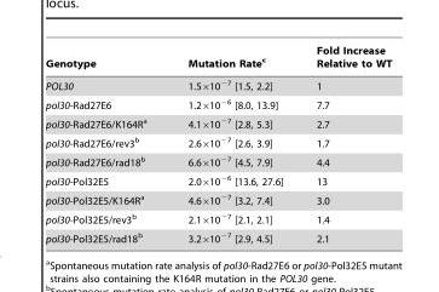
<table><thead><tr><td>Genotype</td><td>Mutation Rate<sup>c</sup></td><td>Fold Increase Relative to WT</td></tr></thead><tbody><tr><td>POL30</td><td>1.5×10<sup>−7</sup> [1.5, 2.2]</td><td>1</td></tr><tr><td>pol30-Rad27E6</td><td>1.2×10<sup>−6</sup> [8.0, 13.9]</td><td>7.7</td></tr><tr><td>pol30-Rad27E6/K164R<sup>a</sup></td><td>4.1×10<sup>−7</sup> [2.8, 5.3]</td><td>2.7</td></tr><tr><td>pol30-Rad27E6/rev3<sup>b</sup></td><td>2.6×10<sup>−7</sup> [2.6, 3.9]</td><td>1.7</td></tr><tr><td>pol30-Rad27E6/rad18<sup>b</sup></td><td>6.6×10<sup>−7</sup> [4.5, 7.9]</td><td>4.4</td></tr><tr><td>pol30-Pol32E5</td><td>2.0×10<sup>−6</sup> [13.6, 27.6]</td><td>13</td></tr><tr><td>pol30-Pol32E5/K164R<sup>a</sup></td><td>4.6×10<sup>−7</sup> [3.2, 7.4]</td><td>3.0</td></tr><tr><td>pol30-Pol32E5/rev3<sup>b</sup></td><td>2.1×10<sup>−7</sup> [2.1, 2.1]</td><td>1.4</td></tr><tr><td>pol30-Pol32E5/rad18<sup>b</sup></td><td>3.2×10<sup>−7</sup> [2.9, 4.5]</td><td>2.1</td></tr></tbody></table>